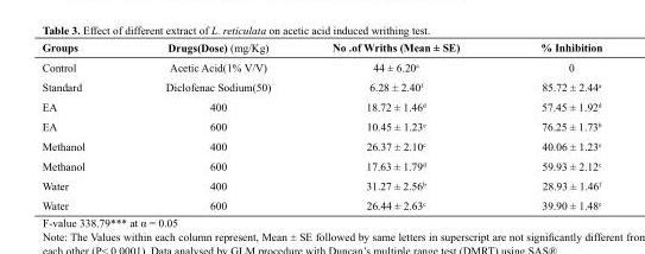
<table><thead><tr><td>Groups</td><td>Drugs(Dose) (mg/Kg)</td><td>No .of Wriths (Mean ± SE)</td><td>% Inhibition</td></tr></thead><tbody><tr><td>Control</td><td>Acetic Acid(1% V/V)</td><td>44 ± 6.20<sup>a</sup></td><td>0</td></tr><tr><td>Standard</td><td>Diclofenac Sodium(50)</td><td>6.28 ± 2.40<sup>f</sup></td><td>85.72 ± 2.44<sup>a</sup></td></tr><tr><td>EA</td><td>400</td><td>18.72 ± 1.46<sup>d</sup></td><td>57.45 ± 1.92<sup>d</sup></td></tr><tr><td>EA</td><td>600</td><td>10.45 ± 1.23<sup>e</sup></td><td>76.25 ± 1.73<sup>b</sup></td></tr><tr><td>Methanol</td><td>400</td><td>26.37 ± 2.10<sup>c</sup></td><td>40.06 ± 1.23<sup>e</sup></td></tr><tr><td>Methanol</td><td>600</td><td>17.63 ± 1.79<sup>d</sup></td><td>59.93 ± 2.12<sup>c</sup></td></tr><tr><td>Water</td><td>400</td><td>31.27 ± 2.56<sup>b</sup></td><td>28.93 ± 1.46<sup>f</sup></td></tr><tr><td>Water</td><td>600</td><td>26.44 ± 2.63<sup>c</sup></td><td>39.90 ± 1.48<sup>e</sup></td></tr></tbody></table>